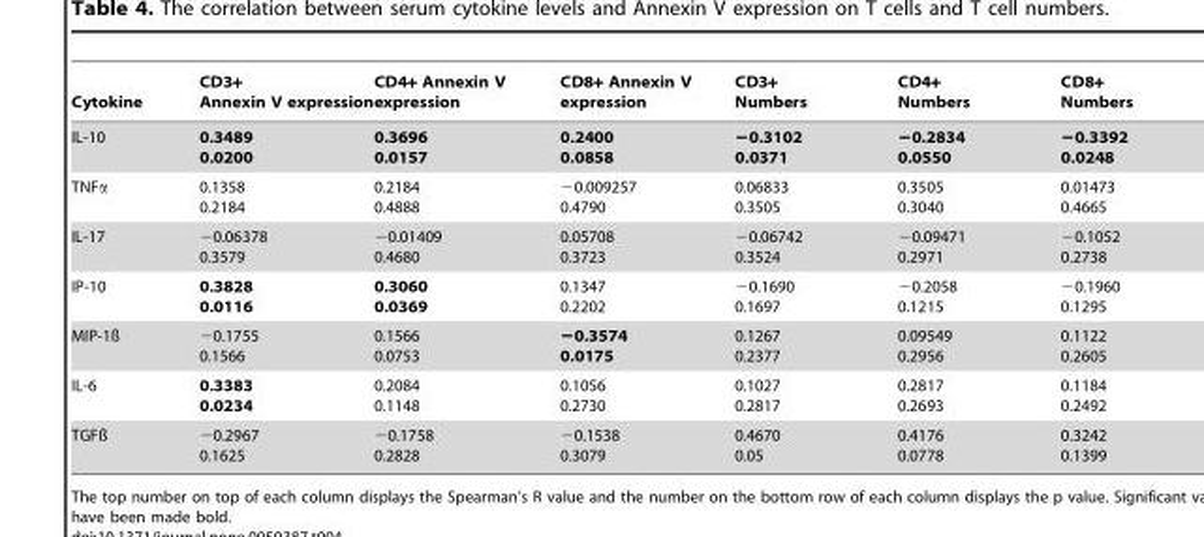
<table><thead><tr><td>Cytokine</td><td>CD3+ Annexin V expression</td><td>CD4+ Annexin V expression</td><td>CD8+ Annexin V expression</td><td>CD3+ Numbers</td><td>CD4+ Numbers</td><td>CD8+ Numbers</td></tr></thead><tbody><tr><td>IL-10</td><td>0.3489 0.0200</td><td>0.3696 0.0157</td><td>0.2400 0.0858</td><td>−0.3102 0.0371</td><td>−0.2834 0.0550</td><td>−0.3392 0.0248</td></tr><tr><td>TNFα</td><td>0.1358 0.2184</td><td>0.2184 0.4888</td><td>−0.009257 0.4790</td><td>0.06833 0.3505</td><td>0.3505 0.3040</td><td>0.01473 0.4665</td></tr><tr><td>IL-17</td><td>−0.06378 0.3579</td><td>−0.01409 0.4680</td><td>0.05708 0.3723</td><td>−0.06742 0.3524</td><td>−0.09471 0.2971</td><td>−0.1052 0.2738</td></tr><tr><td>IP-10</td><td>0.3828 0.0116</td><td>0.3060 0.0369</td><td>0.1347 0.2202</td><td>−0.1690 0.1697</td><td>−0.2058 0.1215</td><td>−0.1960 0.1295</td></tr><tr><td>MIP-1ß</td><td>−0.1755 0.1566</td><td>0.1566 0.0753</td><td>−0.3574 0.0175</td><td>0.1267 0.2377</td><td>0.09549 0.2956</td><td>0.1122 0.2605</td></tr><tr><td>IL-6</td><td>0.3383 0.0234</td><td>0.2084 0.1148</td><td>0.1056 0.2730</td><td>0.1027 0.2817</td><td>0.2817 0.2693</td><td>0.1184 0.2492</td></tr><tr><td>TGFß</td><td>−0.2967 0.1625</td><td>−0.1758 0.2828</td><td>−0.1538 0.3079</td><td>0.4670 0.05</td><td>0.4176 0.0778</td><td>0.3242 0.1399</td></tr></tbody></table>